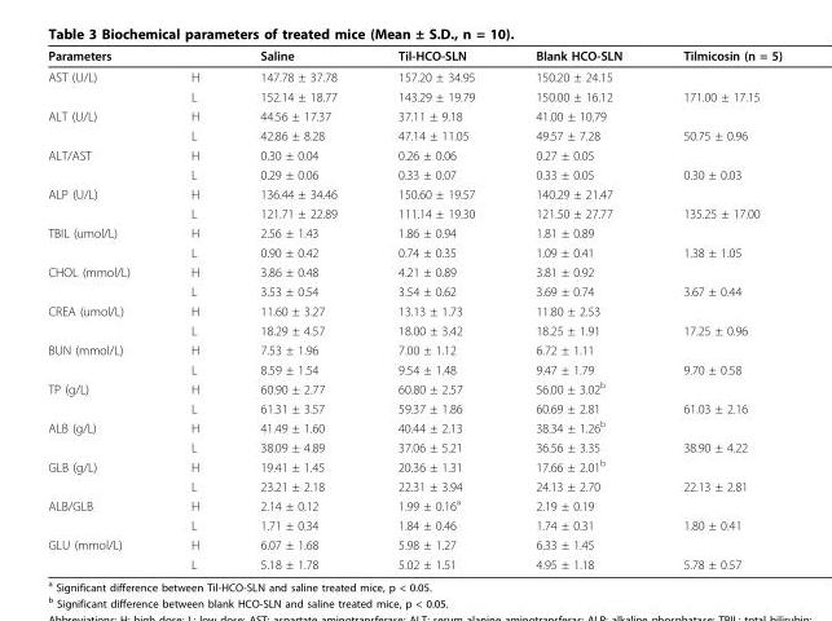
<table><thead><tr><td colspan="2">Parameters</td><td rowspan="2">Saline 147.78 ± 37.78</td><td rowspan="2">Til-HCO-SLN 157.20 ± 34.95</td><td rowspan="2">Blank HCO-SLN 150.20 ± 24.15</td><td rowspan="2">Tilmicosin (n = 5)</td></tr><tr><td>AST (U/L)</td><td>H</td></tr></thead><tbody><tr><td></td><td>L</td><td>152.14 ± 18.77</td><td>143.29 ± 19.79</td><td>150.00 ± 16.12</td><td>171.00 ± 17.15</td></tr><tr><td rowspan="2">ALT (U/L)</td><td>H</td><td>44.56 ± 17.37</td><td>37.11 ± 9.18</td><td>41.00 ± 10.79</td><td></td></tr><tr><td>L</td><td>42.86 ± 8.28</td><td>47.14 ± 11.05</td><td>49.57 ± 7.28</td><td>50.75 ± 0.96</td></tr><tr><td rowspan="2">ALT/AST</td><td>H</td><td>0.30 ± 0.04</td><td>0.26 ± 0.06</td><td>0.27 ± 0.05</td><td></td></tr><tr><td>L</td><td>0.29 ± 0.06</td><td>0.33 ± 0.07</td><td>0.33 ± 0.05</td><td>0.30 ± 0.03</td></tr><tr><td rowspan="2">ALP (U/L)</td><td>H</td><td>136.44 ± 34.46</td><td>150.60 ± 19.57</td><td>140.29 ± 21.47</td><td></td></tr><tr><td>L</td><td>121.71 ± 22.89</td><td>111.14 ± 19.30</td><td>121.50 ± 27.77</td><td>135.25 ± 17.00</td></tr><tr><td rowspan="2">TBIL (umol/L)</td><td>H</td><td>2.56 ± 1.43</td><td>1.86 ± 0.94</td><td>1.81 ± 0.89</td><td></td></tr><tr><td>L</td><td>0.90 ± 0.42</td><td>0.74 ± 0.35</td><td>1.09 ± 0.41</td><td>1.38 ± 1.05</td></tr><tr><td rowspan="2">CHOL (mmol/L)</td><td>H</td><td>3.86 ± 0.48</td><td>4.21 ± 0.89</td><td>3.81 ± 0.92</td><td></td></tr><tr><td>L</td><td>3.53 ± 0.54</td><td>3.54 ± 0.62</td><td>3.69 ± 0.74</td><td>3.67 ± 0.44</td></tr><tr><td rowspan="2">CREA (umol/L)</td><td>H</td><td>11.60 ± 3.27</td><td>13.13 ± 1.73</td><td>11.80 ± 2.53</td><td></td></tr><tr><td>L</td><td>18.29 ± 4.57</td><td>18.00 ± 3.42</td><td>18.25 ± 1.91</td><td>17.25 ± 0.96</td></tr><tr><td rowspan="2">BUN (mmol/L)</td><td>H</td><td>7.53 ± 1.96</td><td>7.00 ± 1.12</td><td>6.72 ± 1.11</td><td></td></tr><tr><td>L</td><td>8.59 ± 1.54</td><td>9.54 ± 1.48</td><td>9.47 ± 1.79</td><td>9.70 ± 0.58</td></tr><tr><td rowspan="2">TP (g/L)</td><td>H</td><td>60.90 ± 2.77</td><td>60.80 ± 2.57</td><td>56.00 ± 3.02<sup>b</sup></td><td></td></tr><tr><td>L</td><td>61.31 ± 3.57</td><td>59.37 ± 1.86</td><td>60.69 ± 2.81</td><td>61.03 ± 2.16</td></tr><tr><td rowspan="2">ALB (g/L)</td><td>H</td><td>41.49 ± 1.60</td><td>40.44 ± 2.13</td><td>38.34 ± 1.26<sup>b</sup></td><td></td></tr><tr><td>L</td><td>38.09 ± 4.89</td><td>37.06 ± 5.21</td><td>36.56 ± 3.35</td><td>38.90 ± 4.22</td></tr><tr><td rowspan="2">GLB (g/L)</td><td>H</td><td>19.41 ± 1.45</td><td>20.36 ± 1.31</td><td>17.66 ± 2.01<sup>b</sup></td><td></td></tr><tr><td>L</td><td>23.21 ± 2.18</td><td>22.31 ± 3.94</td><td>24.13 ± 2.70</td><td>22.13 ± 2.81</td></tr><tr><td rowspan="2">ALB/GLB</td><td>H</td><td>2.14 ± 0.12</td><td>1.99 ± 0.16<sup>a</sup></td><td>2.19 ± 0.19</td><td></td></tr><tr><td>L</td><td>1.71 ± 0.34</td><td>1.84 ± 0.46</td><td>1.74 ± 0.31</td><td>1.80 ± 0.41</td></tr><tr><td rowspan="2">GLU (mmol/L)</td><td>H</td><td>6.07 ± 1.68</td><td>5.98 ± 1.27</td><td>6.33 ± 1.45</td><td></td></tr><tr><td>L</td><td>5.18 ± 1.78</td><td>5.02 ± 1.51</td><td>4.95 ± 1.18</td><td>5.78 ± 0.57</td></tr></tbody></table>